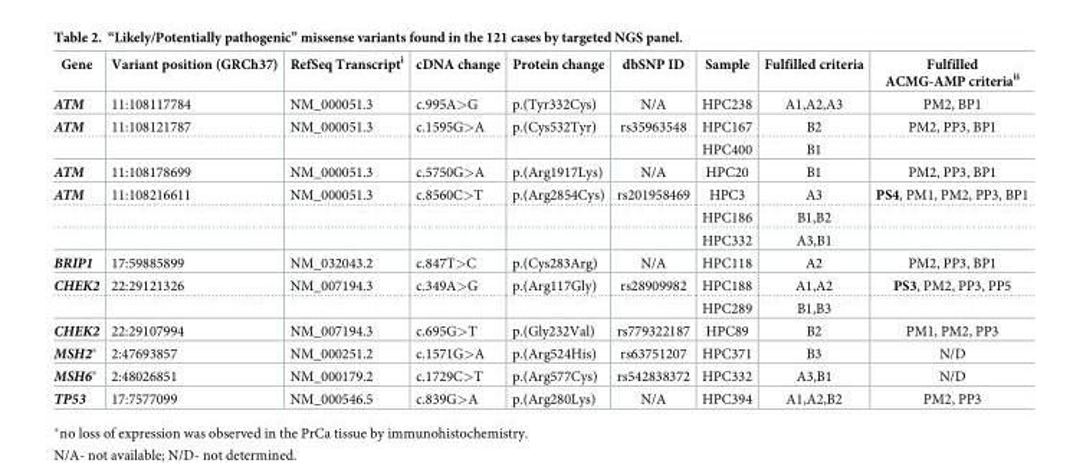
<table><thead><tr><td>Gene</td><td>Variant position (GRCh37)</td><td>RefSeq Transcript<sup>i</sup></td><td>cDNA change</td><td>Protein change</td><td>dbSNP ID</td><td>Sample</td><td>Fulfilled criteria</td><td>Fulfilled ACMG-AMP criteria<sup>ii</sup></td></tr></thead><tbody><tr><td>ATM</td><td>11:108117784</td><td>NM_000051.3</td><td>c.995A&gt;G</td><td>p.(Tyr332Cys)</td><td>N/A</td><td>HPC238</td><td>A1,A2,A3</td><td>PM2, BP1</td></tr><tr><td rowspan="2">ATM</td><td>11:108121787</td><td>NM_000051.3</td><td>c.1595G&gt;A</td><td>p.(Cys532Tyr)</td><td>rs35963548</td><td>HPC167</td><td>B2</td><td>PM2, PP3, BP1</td></tr><tr><td></td><td></td><td></td><td></td><td></td><td>HPC400</td><td>B1</td><td></td></tr><tr><td>ATM</td><td>11:108178699</td><td>NM_000051.3</td><td>c.5750G&gt;A</td><td>p.(Arg1917Lys)</td><td>N/A</td><td>HPC20</td><td>B1</td><td>PM2, PP3, BP1</td></tr><tr><td rowspan="3">ATM</td><td>11:108216611</td><td>NM_000051.3</td><td>c.8560C&gt;T</td><td>p.(Arg2854Cys)</td><td>rs201958469</td><td>HPC3</td><td>A3</td><td>PS4, PM1, PM2, PP3, BP1</td></tr><tr><td></td><td></td><td></td><td></td><td></td><td>HPC186</td><td>B1,B2</td><td></td></tr><tr><td></td><td></td><td></td><td></td><td></td><td>HPC332</td><td>A3,B1</td><td></td></tr><tr><td>BRIP1</td><td>17:59885899</td><td>NM_032043.2</td><td>c.847T&gt;C</td><td>p.(Cys283Arg)</td><td>N/A</td><td>HPC118</td><td>A2</td><td>PM2, PP3, BP1</td></tr><tr><td rowspan="2">CHEK2</td><td>22:29121326</td><td>NM_007194.3</td><td>c.349A&gt;G</td><td>p.(Arg117Gly)</td><td>rs28909982</td><td>HPC188</td><td>A1,A2</td><td>PS3, PM2, PP3, PP5</td></tr><tr><td></td><td></td><td></td><td></td><td></td><td>HPC289</td><td>B1,B3</td><td></td></tr><tr><td>CHEK2</td><td>22:29107994</td><td>NM_007194.3</td><td>c.695G&gt;T</td><td>p.(Gly232Val)</td><td>rs779322187</td><td>HPC89</td><td>B2</td><td>PM1, PM2, PP3</td></tr><tr><td>MSH2*</td><td>2:47693857</td><td>NM_000251.2</td><td>c.1571G&gt;A</td><td>p.(Arg524His)</td><td>rs63751207</td><td>HPC371</td><td>B3</td><td>N/D</td></tr><tr><td>MSH6*</td><td>2:48026851</td><td>NM_000179.2</td><td>c.1729C&gt;T</td><td>p.(Arg577Cys)</td><td>rs542838372</td><td>HPC332</td><td>A3,B1</td><td>N/D</td></tr><tr><td>TP53</td><td>17:7577099</td><td>NM_000546.5</td><td>c.839G&gt;A</td><td>p.(Arg280Lys)</td><td>N/A</td><td>HPC394</td><td>A1,A2,B2</td><td>PM2, PP3</td></tr></tbody></table>